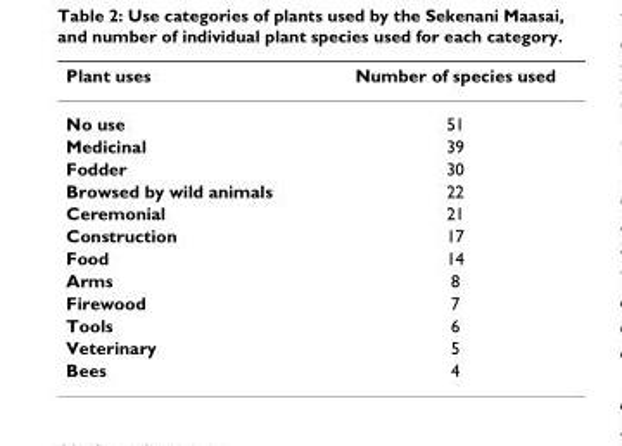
<table><thead><tr><td>Plant uses</td><td>Number of species used</td></tr></thead><tbody><tr><td>No use</td><td>51</td></tr><tr><td>Medicinal</td><td>39</td></tr><tr><td>Fodder</td><td>30</td></tr><tr><td>Browsed by wild animals</td><td>22</td></tr><tr><td>Ceremonial</td><td>21</td></tr><tr><td>Construction</td><td>17</td></tr><tr><td>Food</td><td>14</td></tr><tr><td>Arms</td><td>8</td></tr><tr><td>Firewood</td><td>7</td></tr><tr><td>Tools</td><td>6</td></tr><tr><td>Veterinary</td><td>5</td></tr><tr><td>Bees</td><td>4</td></tr></tbody></table>